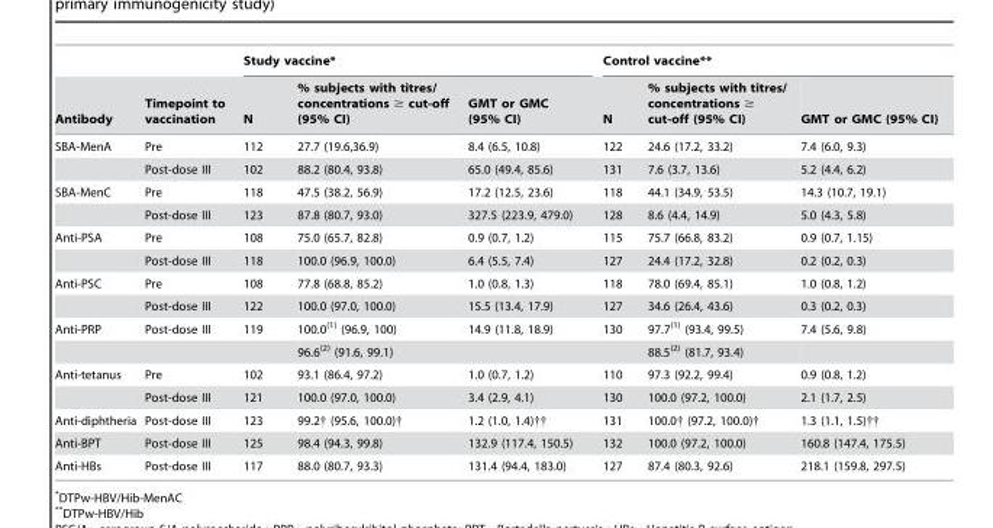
<table><thead><tr><td rowspan="2">Antibody</td><td rowspan="2">Timepoint to vaccination</td><td colspan="3">Study vaccine*</td><td colspan="3">Control vaccine**</td></tr><tr><td>N</td><td>% subjects with titres/ concentrations ≥ cut-off (95% CI)</td><td>GMT or GMC (95% CI)</td><td>N</td><td>% subjects with titres/ concentrations ≥ cut-off (95% CI)</td><td>GMT or GMC (95% CI)</td></tr></thead><tbody><tr><td rowspan="2">SBA-MenA</td><td>Pre</td><td>112</td><td>27.7 (19.6,36.9)</td><td>8.4 (6.5, 10.8)</td><td>122</td><td>24.6 (17.2, 33.2)</td><td>7.4 (6.0, 9.3)</td></tr><tr><td>Post-dose III</td><td>102</td><td>88.2 (80.4, 93.8)</td><td>65.0 (49.4, 85.6)</td><td>131</td><td>7.6 (3.7, 13.6)</td><td>5.2 (4.4, 6.2)</td></tr><tr><td rowspan="2">SBA-MenC</td><td>Pre</td><td>118</td><td>47.5 (38.2, 56.9)</td><td>17.2 (12.5, 23.6)</td><td>118</td><td>44.1 (34.9, 53.5)</td><td>14.3 (10.7, 19.1)</td></tr><tr><td>Post-dose III</td><td>123</td><td>87.8 (80.7, 93.0)</td><td>327.5 (223.9, 479.0)</td><td>128</td><td>8.6 (4.4, 14.9)</td><td>5.0 (4.3, 5.8)</td></tr><tr><td rowspan="2">Anti-PSA</td><td>Pre</td><td>108</td><td>75.0 (65.7, 82.8)</td><td>0.9 (0.7, 1.2)</td><td>115</td><td>75.7 (66.8, 83.2)</td><td>0.9 (0.7, 1.15)</td></tr><tr><td>Post-dose III</td><td>118</td><td>100.0 (96.9, 100.0)</td><td>6.4 (5.5, 7.4)</td><td>127</td><td>24.4 (17.2, 32.8)</td><td>0.2 (0.2, 0.3)</td></tr><tr><td rowspan="2">Anti-PSC</td><td>Pre</td><td>108</td><td>77.8 (68.8, 85.2)</td><td>1.0 (0.8, 1.3)</td><td>118</td><td>78.0 (69.4, 85.1)</td><td>1.0 (0.8, 1.2)</td></tr><tr><td>Post-dose III</td><td>122</td><td>100.0 (97.0, 100.0)</td><td>15.5 (13.4, 17.9)</td><td>127</td><td>34.6 (26.4, 43.6)</td><td>0.3 (0.2, 0.3)</td></tr><tr><td rowspan="2">Anti-PRP</td><td>Post-dose III</td><td>119</td><td>100.0(1) (96.9, 100)</td><td>14.9 (11.8, 18.9)</td><td>130</td><td>97.7(1) (93.4, 99.5)</td><td>7.4 (5.6, 9.8)</td></tr><tr><td></td><td></td><td>96.6(2) (91.6, 99.1)</td><td></td><td></td><td>88.5(2) (81.7, 93.4)</td><td></td></tr><tr><td rowspan="2">Anti-tetanus</td><td>Pre</td><td>102</td><td>93.1 (86.4, 97.2)</td><td>1.0 (0.7, 1.2)</td><td>110</td><td>97.3 (92.2, 99.4)</td><td>0.9 (0.8, 1.2)</td></tr><tr><td>Post-dose III</td><td>121</td><td>100.0 (97.0, 100.0)</td><td>3.4 (2.9, 4.1)</td><td>130</td><td>100.0 (97.2, 100.0)</td><td>2.1 (1.7, 2.5)</td></tr><tr><td>Anti-diphtheria</td><td>Post-dose III</td><td>123</td><td>99.2† (95.6, 100.0)†</td><td>1.2 (1.0, 1.4)††</td><td>131</td><td>100.0† (97.2, 100.0)†</td><td>1.3 (1.1, 1.5)††</td></tr><tr><td>Anti-BPT</td><td>Post-dose III</td><td>125</td><td>98.4 (94.3, 99.8)</td><td>132.9 (117.4, 150.5)</td><td>132</td><td>100.0 (97.2, 100.0)</td><td>160.8 (147.4, 175.5)</td></tr><tr><td>Anti-HBs</td><td>Post-dose III</td><td>117</td><td>88.0 (80.7, 93.3)</td><td>131.4 (94.4, 183.0)</td><td>127</td><td>87.4 (80.3, 92.6)</td><td>218.1 (159.8, 297.5)</td></tr></tbody></table>